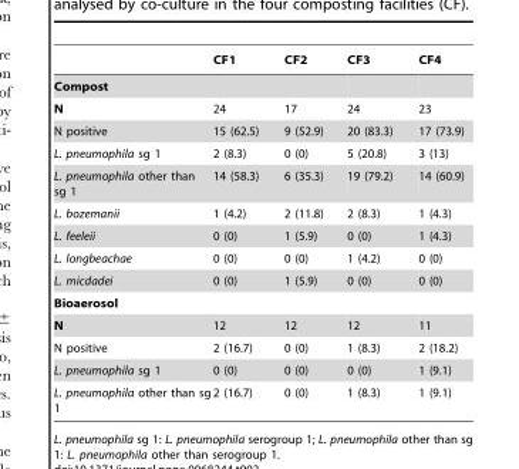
<table><thead><tr><td></td><td>CF1</td><td>CF2</td><td>CF3</td><td>CF4</td></tr></thead><tbody><tr><td colspan="5">Compost</td></tr><tr><td>N</td><td>24</td><td>17</td><td>24</td><td>23</td></tr><tr><td>N positive</td><td>15 (62.5)</td><td>9 (52.9)</td><td>20 (83.3)</td><td>17 (73.9)</td></tr><tr><td>L. pneumophila sg 1</td><td>2 (8.3)</td><td>0 (0)</td><td>5 (20.8)</td><td>3 (13)</td></tr><tr><td>L. pneumophila other than sg 1</td><td>14 (58.3)</td><td>6 (35.3)</td><td>19 (79.2)</td><td>14 (60.9)</td></tr><tr><td>L. bozemanii</td><td>1 (4.2)</td><td>2 (11.8)</td><td>2 (8.3)</td><td>1 (4.3)</td></tr><tr><td>L. feeleii</td><td>0 (0)</td><td>1 (5.9)</td><td>0 (0)</td><td>1 (4.3)</td></tr><tr><td>L. longbeachae</td><td>0 (0)</td><td>0 (0)</td><td>1 (4.2)</td><td>0 (0)</td></tr><tr><td>L. micdadei</td><td>0 (0)</td><td>1 (5.9)</td><td>0 (0)</td><td>0 (0)</td></tr><tr><td colspan="5">Bioaerosol</td></tr><tr><td>N</td><td>12</td><td>12</td><td>12</td><td>11</td></tr><tr><td>N positive</td><td>2 (16.7)</td><td>0 (0)</td><td>1 (8.3)</td><td>2 (18.2)</td></tr><tr><td>L. pneumophila sg 1</td><td>0 (0)</td><td>0 (0)</td><td>0 (0)</td><td>1 (9.1)</td></tr><tr><td>L. pneumophila other than sg 1</td><td>2 (16.7)</td><td>0 (0)</td><td>1 (8.3)</td><td>1 (9.1)</td></tr></tbody></table>